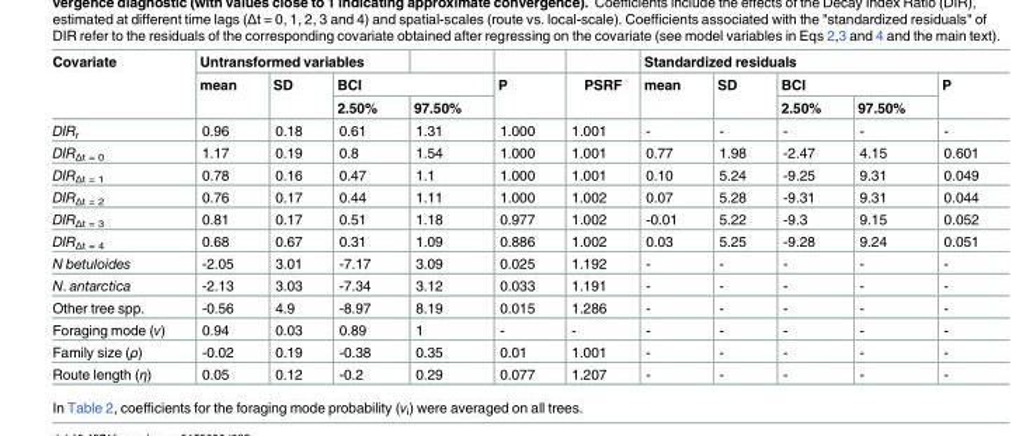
<table><thead><tr><td rowspan="3">Covariate</td><td colspan="3">Untransformed variables</td><td></td><td rowspan="3">P</td><td rowspan="3">PSRF</td><td colspan="5">Standardized residuals</td></tr><tr><td rowspan="2">mean</td><td rowspan="2">SD</td><td colspan="2">BCI</td><td rowspan="2">mean</td><td rowspan="2">SD</td><td colspan="2">BCI</td><td rowspan="2">P</td></tr><tr><td>2.50%</td><td>97.50%</td><td>2.50%</td><td>97.50%</td></tr></thead><tbody><tr><td>DIR<sub>r</sub></td><td>0.96</td><td>0.18</td><td>0.61</td><td>1.31</td><td>1.000</td><td>1.001</td><td>-</td><td>-</td><td>-</td><td>-</td><td>-</td></tr><tr><td>DIR<sub>Δt = 0</sub></td><td>1.17</td><td>0.19</td><td>0.8</td><td>1.54</td><td>1.000</td><td>1.001</td><td>0.77</td><td>1.98</td><td>-2.47</td><td>4.15</td><td>0.601</td></tr><tr><td>DIR<sub>Δt = 1</sub></td><td>0.78</td><td>0.16</td><td>0.47</td><td>1.1</td><td>1.000</td><td>1.001</td><td>0.10</td><td>5.24</td><td>-9.25</td><td>9.31</td><td>0.049</td></tr><tr><td>DIR<sub>Δt = 2</sub></td><td>0.76</td><td>0.17</td><td>0.44</td><td>1.11</td><td>1.000</td><td>1.002</td><td>0.07</td><td>5.28</td><td>-9.31</td><td>9.31</td><td>0.044</td></tr><tr><td>DIR<sub>Δt = 3</sub></td><td>0.81</td><td>0.17</td><td>0.51</td><td>1.18</td><td>0.977</td><td>1.002</td><td>-0.01</td><td>5.22</td><td>-9.3</td><td>9.15</td><td>0.052</td></tr><tr><td>DIR<sub>Δt = 4</sub></td><td>0.68</td><td>0.67</td><td>0.31</td><td>1.09</td><td>0.886</td><td>1.002</td><td>0.03</td><td>5.25</td><td>-9.28</td><td>9.24</td><td>0.051</td></tr><tr><td>N betuloides</td><td>-2.05</td><td>3.01</td><td>-7.17</td><td>3.09</td><td>0.025</td><td>1.192</td><td>-</td><td>-</td><td>-</td><td>-</td><td>-</td></tr><tr><td>N. antarctica</td><td>-2.13</td><td>3.03</td><td>-7.34</td><td>3.12</td><td>0.033</td><td>1.191</td><td>-</td><td>-</td><td>-</td><td>-</td><td>-</td></tr><tr><td>Other tree spp.</td><td>-0.56</td><td>4.9</td><td>-8.97</td><td>8.19</td><td>0.015</td><td>1.286</td><td>-</td><td>-</td><td>-</td><td>-</td><td>-</td></tr><tr><td>Foraging mode (v)</td><td>0.94</td><td>0.03</td><td>0.89</td><td>1</td><td>-</td><td>-</td><td>-</td><td>-</td><td>-</td><td>-</td><td>-</td></tr><tr><td>Family size (ρ)</td><td>-0.02</td><td>0.19</td><td>-0.38</td><td>0.35</td><td>0.01</td><td>1.001</td><td>-</td><td>-</td><td>-</td><td>-</td><td>-</td></tr><tr><td>Route length (η)</td><td>0.05</td><td>0.12</td><td>-0.2</td><td>0.29</td><td>0.077</td><td>1.207</td><td>-</td><td>-</td><td>-</td><td>-</td><td>-</td></tr></tbody></table>